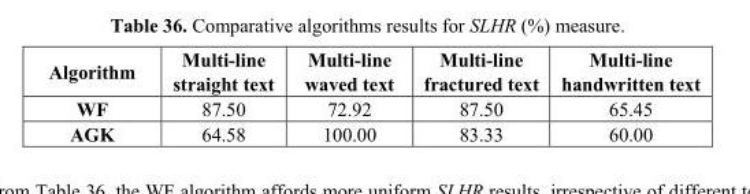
<table><thead><tr><td>Algorithm</td><td>Multi-line straight text</td><td>Multi-line waved text</td><td>Multi-line fractured text</td><td>Multi-line handwritten text</td></tr></thead><tbody><tr><td>WF</td><td>87.50</td><td>72.92</td><td>87.50</td><td>65.45</td></tr><tr><td>AGK</td><td>64.58</td><td>100.00</td><td>83.33</td><td>60.00</td></tr></tbody></table>